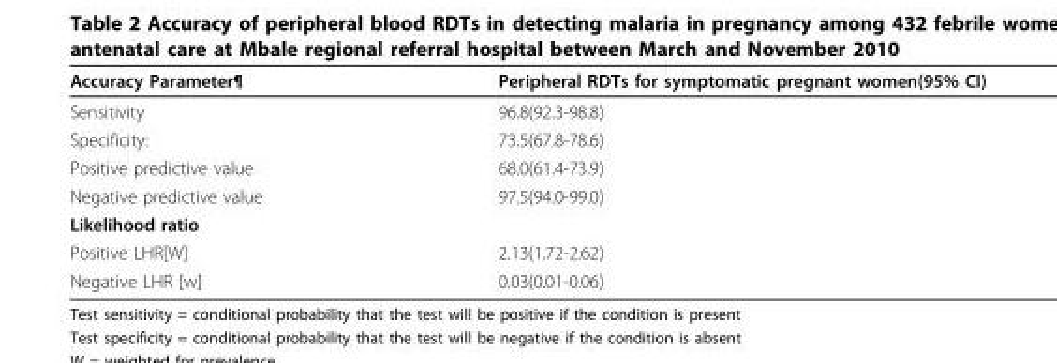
<table><thead><tr><td>Accuracy Parameter¶</td><td>Peripheral RDTs for symptomatic pregnant women(95% CI)</td></tr></thead><tbody><tr><td>Sensitivity</td><td>96.8(92.3-98.8)</td></tr><tr><td>Specificity:</td><td>73.5(67.8-78.6)</td></tr><tr><td>Positive predictive value</td><td>68.0(61.4-73.9)</td></tr><tr><td>Negative predictive value</td><td>97.5(94.0-99.0)</td></tr><tr><td colspan="2">Likelihood ratio</td></tr><tr><td>Positive LHR[W]</td><td>2.13(1.72-2.62)</td></tr><tr><td>Negative LHR [w]</td><td>0.03(0.01-0.06)</td></tr></tbody></table>